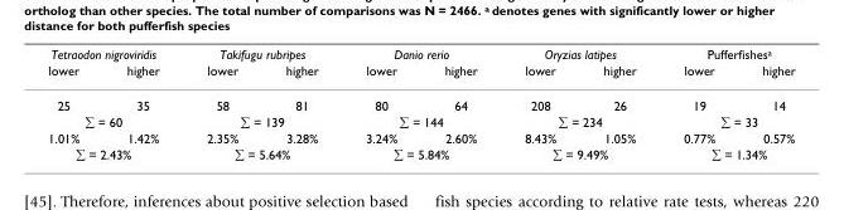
<table><thead><tr><td colspan="2">Tetraodon nigroviridis</td><td colspan="2">Takifugu rubripes</td><td colspan="2">Danio rerio</td><td colspan="2">Oryzias latipes</td><td colspan="2">Pufferfishesa</td></tr><tr><td>lower</td><td>higher</td><td>lower</td><td>higher</td><td>lower</td><td>higher</td><td>lower</td><td>higher</td><td>lower</td><td>higher</td></tr></thead><tbody><tr><td>25</td><td>35</td><td>58</td><td>81</td><td>80</td><td>64</td><td>208</td><td>26</td><td>19</td><td>14</td></tr><tr><td colspan="2">∑ = 60</td><td colspan="2">∑ = 139</td><td colspan="2">∑ = 144</td><td colspan="2">∑ = 234</td><td colspan="2">∑ = 33</td></tr><tr><td>1.01%</td><td>1.42%</td><td>2.35%</td><td>3.28%</td><td>3.24%</td><td>2.60%</td><td>8.43%</td><td>1.05%</td><td>0.77%</td><td>0.57%</td></tr><tr><td colspan="2">∑ = 2.43%</td><td colspan="2">∑ = 5.64%</td><td colspan="2">∑ = 5.84%</td><td colspan="2">∑ = 9.49%</td><td colspan="2">∑ = 1.34%</td></tr></tbody></table>